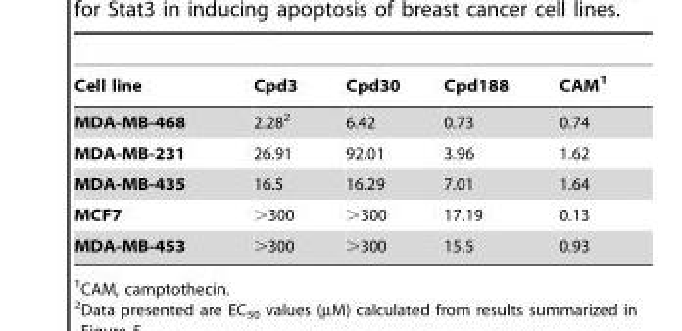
<table><thead><tr><td>Cell line</td><td>Cpd3</td><td>Cpd30</td><td>Cpd188</td><td>CAM<sup>1</sup></td></tr></thead><tbody><tr><td>MDA-MB-468</td><td>2.28<sup>2</sup></td><td>6.42</td><td>0.73</td><td>0.74</td></tr><tr><td>MDA-MB-231</td><td>26.91</td><td>92.01</td><td>3.96</td><td>1.62</td></tr><tr><td>MDA-MB-435</td><td>16.5</td><td>16.29</td><td>7.01</td><td>1.64</td></tr><tr><td>MCF7</td><td>&gt;300</td><td>&gt;300</td><td>17.19</td><td>0.13</td></tr><tr><td>MDA-MB-453</td><td>&gt;300</td><td>&gt;300</td><td>15.5</td><td>0.93</td></tr></tbody></table>